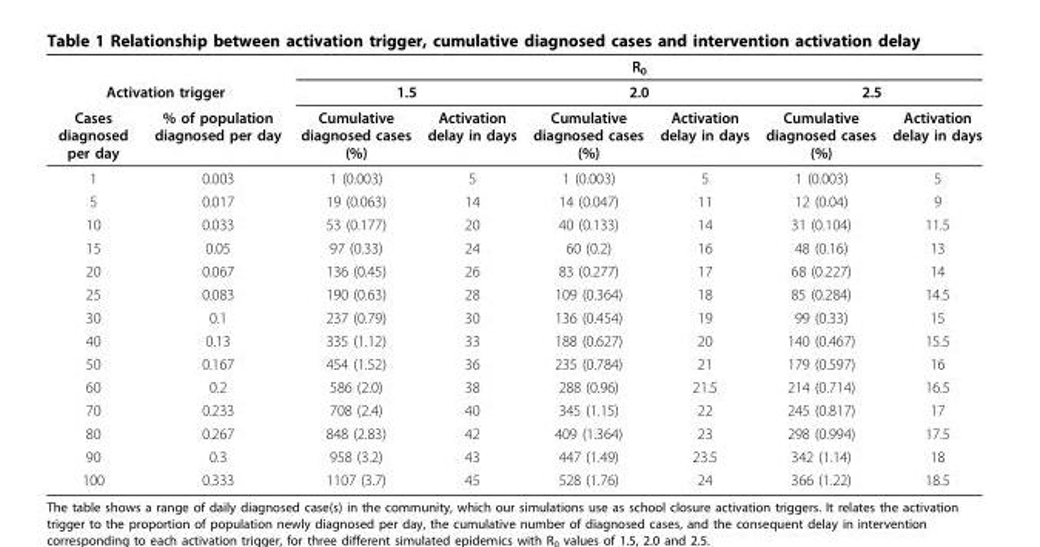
<table><thead><tr><td></td><td></td><td colspan="6">R<sub>0</sub></td></tr><tr><td colspan="2">Activation trigger</td><td colspan="2">1.5</td><td colspan="2">2.0</td><td colspan="2">2.5</td></tr><tr><td>Cases diagnosed per day</td><td>% of population diagnosed per day</td><td>Cumulative diagnosed cases (%)</td><td>Activation delay in days</td><td>Cumulative diagnosed cases (%)</td><td>Activation delay in days</td><td>Cumulative diagnosed cases (%)</td><td>Activation delay in days</td></tr></thead><tbody><tr><td>1</td><td>0.003</td><td>1 (0.003)</td><td>5</td><td>1 (0.003)</td><td>5</td><td>1 (0.003)</td><td>5</td></tr><tr><td>5</td><td>0.017</td><td>19 (0.063)</td><td>14</td><td>14 (0.047)</td><td>11</td><td>12 (0.04)</td><td>9</td></tr><tr><td>10</td><td>0.033</td><td>53 (0.177)</td><td>20</td><td>40 (0.133)</td><td>14</td><td>31 (0.104)</td><td>11.5</td></tr><tr><td>15</td><td>0.05</td><td>97 (0.33)</td><td>24</td><td>60 (0.2)</td><td>16</td><td>48 (0.16)</td><td>13</td></tr><tr><td>20</td><td>0.067</td><td>136 (0.45)</td><td>26</td><td>83 (0.277)</td><td>17</td><td>68 (0.227)</td><td>14</td></tr><tr><td>25</td><td>0.083</td><td>190 (0.63)</td><td>28</td><td>109 (0.364)</td><td>18</td><td>85 (0.284)</td><td>14.5</td></tr><tr><td>30</td><td>0.1</td><td>237 (0.79)</td><td>30</td><td>136 (0.454)</td><td>19</td><td>99 (0.33)</td><td>15</td></tr><tr><td>40</td><td>0.13</td><td>335 (1.12)</td><td>33</td><td>188 (0.627)</td><td>20</td><td>140 (0.467)</td><td>15.5</td></tr><tr><td>50</td><td>0.167</td><td>454 (1.52)</td><td>36</td><td>235 (0.784)</td><td>21</td><td>179 (0.597)</td><td>16</td></tr><tr><td>60</td><td>0.2</td><td>586 (2.0)</td><td>38</td><td>288 (0.96)</td><td>21.5</td><td>214 (0.714)</td><td>16.5</td></tr><tr><td>70</td><td>0.233</td><td>708 (2.4)</td><td>40</td><td>345 (1.15)</td><td>22</td><td>245 (0.817)</td><td>17</td></tr><tr><td>80</td><td>0.267</td><td>848 (2.83)</td><td>42</td><td>409 (1.364)</td><td>23</td><td>298 (0.994)</td><td>17.5</td></tr><tr><td>90</td><td>0.3</td><td>958 (3.2)</td><td>43</td><td>447 (1.49)</td><td>23.5</td><td>342 (1.14)</td><td>18</td></tr><tr><td>100</td><td>0.333</td><td>1107 (3.7)</td><td>45</td><td>528 (1.76)</td><td>24</td><td>366 (1.22)</td><td>18.5</td></tr></tbody></table>